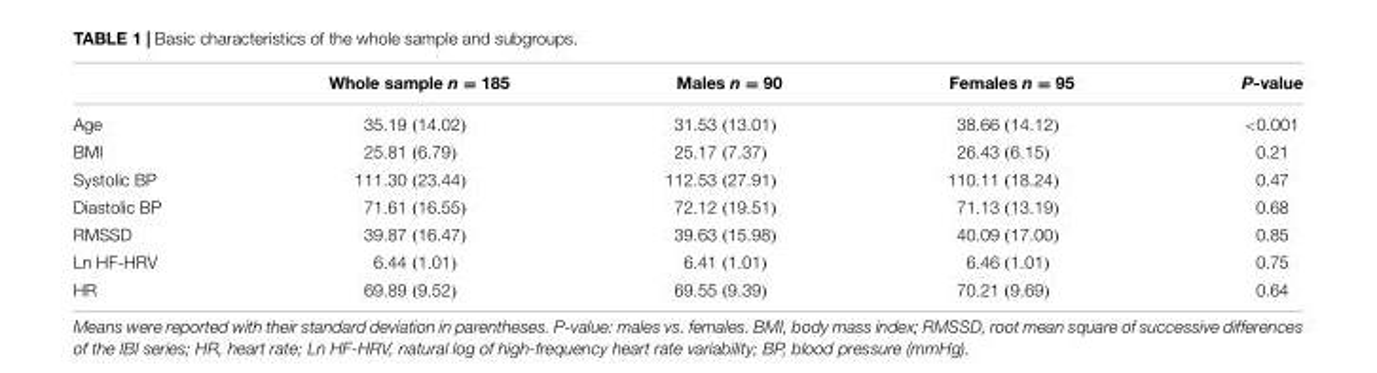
<table><thead><tr><td></td><td>Whole sample n = 185</td><td>Males n = 90</td><td>Females n = 95</td><td>P-value</td></tr></thead><tbody><tr><td>Age</td><td>35.19 (14.02)</td><td>31.53 (13.01)</td><td>38.66 (14.12)</td><td>&lt;0.001</td></tr><tr><td>BMI</td><td>25.81 (6.79)</td><td>25.17 (7.37)</td><td>26.43 (6.15)</td><td>0.21</td></tr><tr><td>Systolic BP</td><td>111.30 (23.44)</td><td>112.53 (27.91)</td><td>110.11 (18.24)</td><td>0.47</td></tr><tr><td>Diastolic BP</td><td>71.61 (16.55)</td><td>72.12 (19.51)</td><td>71.13 (13.19)</td><td>0.68</td></tr><tr><td>RMSSD</td><td>39.87 (16.47)</td><td>39.63 (15.98)</td><td>40.09 (17.00)</td><td>0.85</td></tr><tr><td>Ln HF-HRV</td><td>6.44 (1.01)</td><td>6.41 (1.01)</td><td>6.46 (1.01)</td><td>0.75</td></tr><tr><td>HR</td><td>69.89 (9.52)</td><td>69.55 (9.39)</td><td>70.21 (9.69)</td><td>0.64</td></tr></tbody></table>